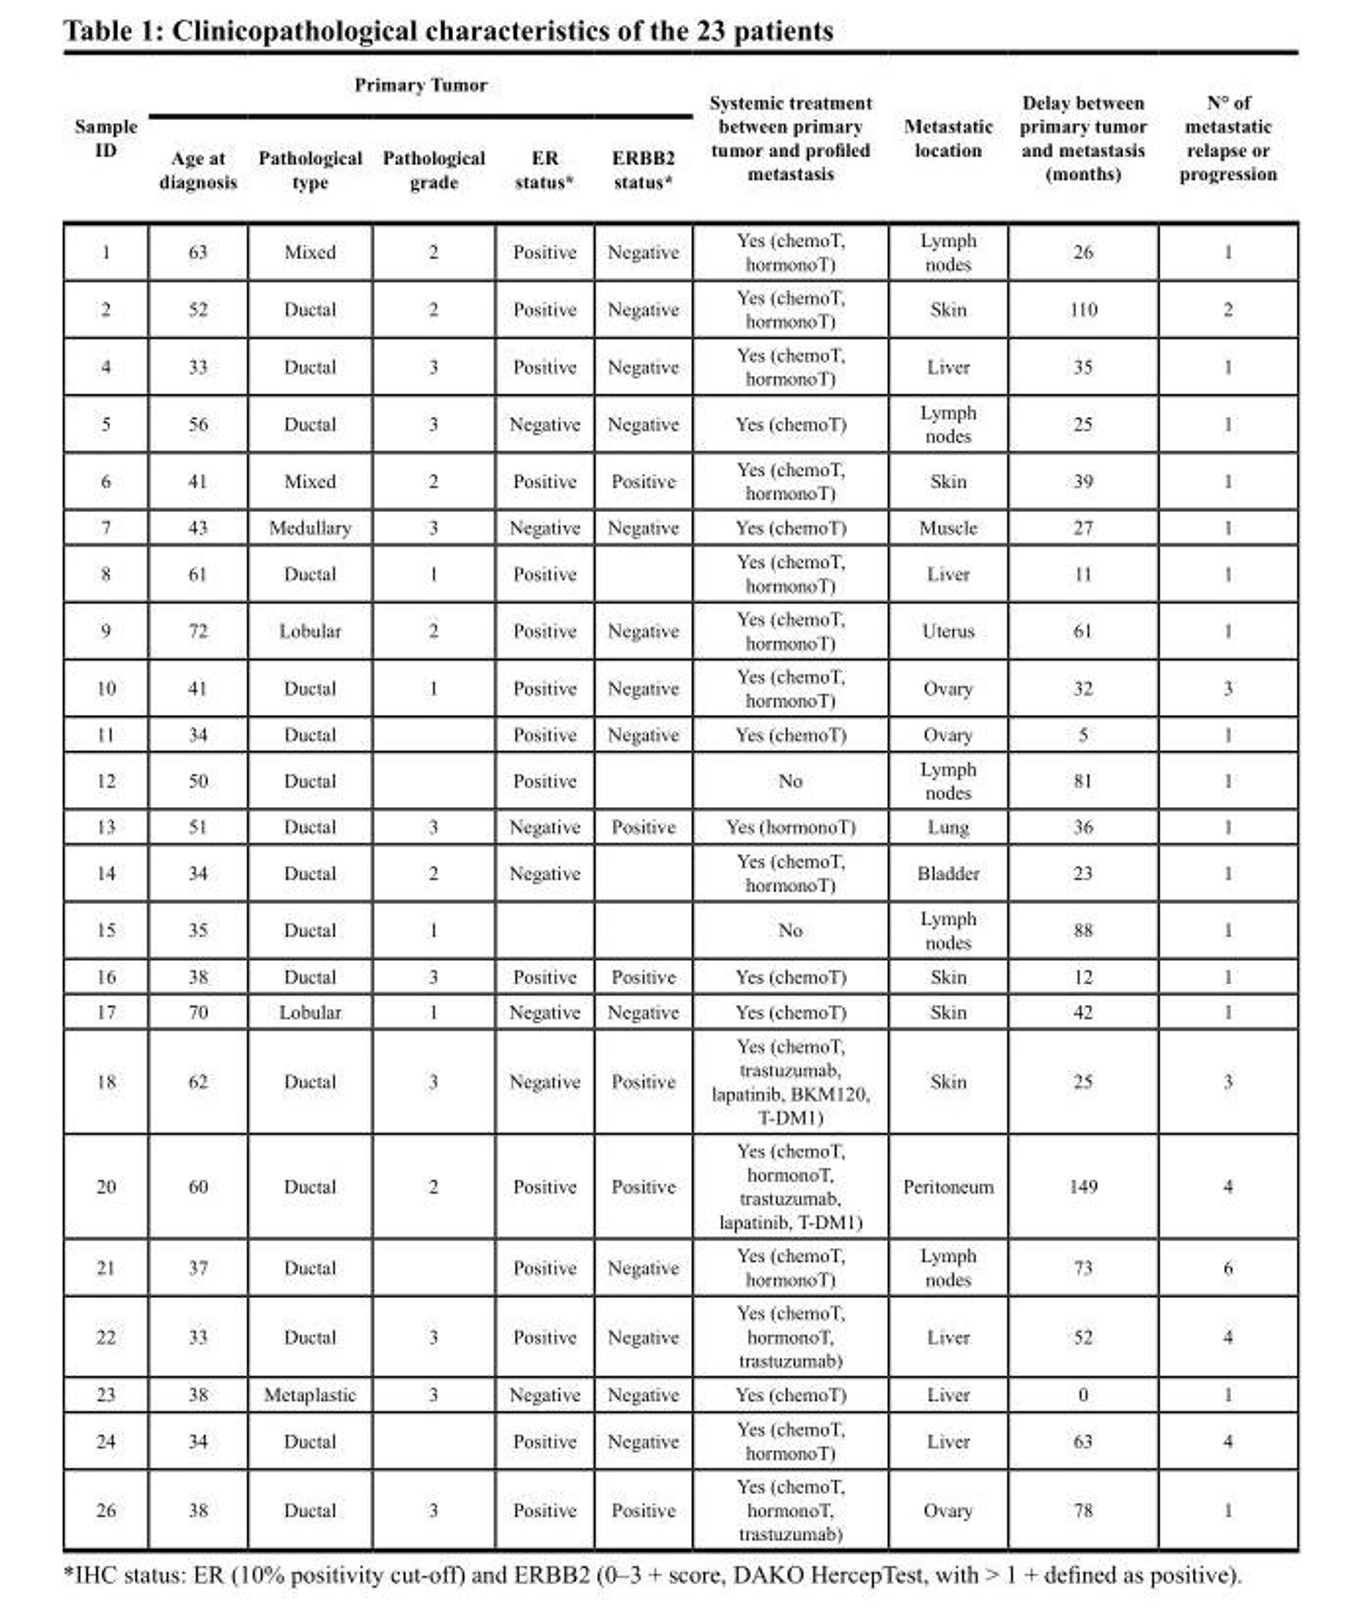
<table><thead><tr><td rowspan="2">Sample ID</td><td colspan="5">Primary Tumor</td><td rowspan="2">Systemic treatment between primary tumor and profiled metastasis</td><td rowspan="2">Metastatic location</td><td rowspan="2">Delay between primary tumor and metastasis (months)</td><td rowspan="2">N° of metastatic relapse or progression</td></tr><tr><td>Age at diagnosis</td><td>Pathological type</td><td>Pathological grade</td><td>ER status*</td><td>ERBB2 status*</td></tr></thead><tbody><tr><td>1</td><td>63</td><td>Mixed</td><td>2</td><td>Positive</td><td>Negative</td><td>Yes (chemoT, hormonoT)</td><td>Lymph nodes</td><td>26</td><td>1</td></tr><tr><td>2</td><td>52</td><td>Ductal</td><td>2</td><td>Positive</td><td>Negative</td><td>Yes (chemoT, hormonoT)</td><td>Skin</td><td>110</td><td>2</td></tr><tr><td>4</td><td>33</td><td>Ductal</td><td>3</td><td>Positive</td><td>Negative</td><td>Yes (chemoT, hormonoT)</td><td>Liver</td><td>35</td><td>1</td></tr><tr><td>5</td><td>56</td><td>Ductal</td><td>3</td><td>Negative</td><td>Negative</td><td>Yes (chemoT)</td><td>Lymph nodes</td><td>25</td><td>1</td></tr><tr><td>6</td><td>41</td><td>Mixed</td><td>2</td><td>Positive</td><td>Positive</td><td>Yes (chemoT, hormonoT)</td><td>Skin</td><td>39</td><td>1</td></tr><tr><td>7</td><td>43</td><td>Medullary</td><td>3</td><td>Negative</td><td>Negative</td><td>Yes (chemoT)</td><td>Muscle</td><td>27</td><td>1</td></tr><tr><td>8</td><td>61</td><td>Ductal</td><td>1</td><td>Positive</td><td></td><td>Yes (chemoT, hormonoT)</td><td>Liver</td><td>11</td><td>1</td></tr><tr><td>9</td><td>72</td><td>Lobular</td><td>2</td><td>Positive</td><td>Negative</td><td>Yes (chemoT, hormonoT)</td><td>Uterus</td><td>61</td><td>1</td></tr><tr><td>10</td><td>41</td><td>Ductal</td><td>1</td><td>Positive</td><td>Negative</td><td>Yes (chemoT, hormonoT)</td><td>Ovary</td><td>32</td><td>3</td></tr><tr><td>11</td><td>34</td><td>Ductal</td><td></td><td>Positive</td><td>Negative</td><td>Yes (chemoT)</td><td>Ovary</td><td>5</td><td>1</td></tr><tr><td>12</td><td>50</td><td>Ductal</td><td></td><td>Positive</td><td></td><td>No</td><td>Lymph nodes</td><td>81</td><td>1</td></tr><tr><td>13</td><td>51</td><td>Ductal</td><td>3</td><td>Negative</td><td>Positive</td><td>Yes (hormonoT)</td><td>Lung</td><td>36</td><td>1</td></tr><tr><td>14</td><td>34</td><td>Ductal</td><td>2</td><td>Negative</td><td></td><td>Yes (chemoT, hormonoT)</td><td>Bladder</td><td>23</td><td>1</td></tr><tr><td>15</td><td>35</td><td>Ductal</td><td>1</td><td></td><td></td><td>No</td><td>Lymph nodes</td><td>88</td><td>1</td></tr><tr><td>16</td><td>38</td><td>Ductal</td><td>3</td><td>Positive</td><td>Positive</td><td>Yes (chemoT)</td><td>Skin</td><td>12</td><td>1</td></tr><tr><td>17</td><td>70</td><td>Lobular</td><td>1</td><td>Negative</td><td>Negative</td><td>Yes (chemoT)</td><td>Skin</td><td>42</td><td>1</td></tr><tr><td>18</td><td>62</td><td>Ductal</td><td>3</td><td>Negative</td><td>Positive</td><td>Yes (chemoT, trastuzumab, lapatinib, BKM120, T-DM1)</td><td>Skin</td><td>25</td><td>3</td></tr><tr><td>20</td><td>60</td><td>Ductal</td><td>2</td><td>Positive</td><td>Positive</td><td>Yes (chemoT, hormonoT, trastuzumab, lapatinib, T-DM1)</td><td>Peritoneum</td><td>149</td><td>4</td></tr><tr><td>21</td><td>37</td><td>Ductal</td><td></td><td>Positive</td><td>Negative</td><td>Yes (chemoT, hormonoT)</td><td>Lymph nodes</td><td>73</td><td>6</td></tr><tr><td>22</td><td>33</td><td>Ductal</td><td>3</td><td>Positive</td><td>Negative</td><td>Yes (chemoT, hormonoT, trastuzumab)</td><td>Liver</td><td>52</td><td>4</td></tr><tr><td>23</td><td>38</td><td>Metaplastic</td><td>3</td><td>Negative</td><td>Negative</td><td>Yes (chemoT)</td><td>Liver</td><td>0</td><td>1</td></tr><tr><td>24</td><td>34</td><td>Ductal</td><td></td><td>Positive</td><td>Negative</td><td>Yes (chemoT, hormonoT)</td><td>Liver</td><td>63</td><td>4</td></tr><tr><td>26</td><td>38</td><td>Ductal</td><td>3</td><td>Positive</td><td>Positive</td><td>Yes (chemoT, hormonoT, trastuzumab)</td><td>Ovary</td><td>78</td><td>1</td></tr></tbody></table>